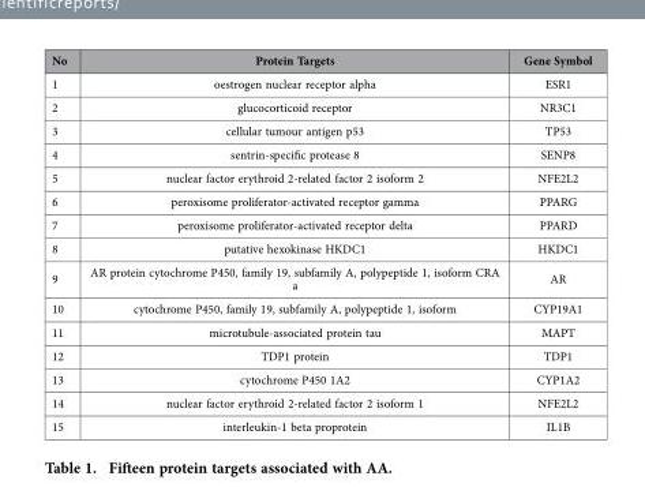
<table><thead><tr><td>No</td><td>Protein Targets</td><td>Gene Symbol</td></tr></thead><tbody><tr><td>1</td><td>oestrogen nuclear receptor alpha</td><td>ESR1</td></tr><tr><td>2</td><td>glucocorticoid receptor</td><td>NR3C1</td></tr><tr><td>3</td><td>cellular tumour antigen p53</td><td>TP53</td></tr><tr><td>4</td><td>sentrin-specific protease 8</td><td>SENP8</td></tr><tr><td>5</td><td>nuclear factor erythroid 2-related factor 2 isoform 2</td><td>NFE2L2</td></tr><tr><td>6</td><td>peroxisome proliferator-activated receptor gamma</td><td>PPARG</td></tr><tr><td>7</td><td>peroxisome proliferator-activated receptor delta</td><td>PPARD</td></tr><tr><td>8</td><td>putative hexokinase HKDC1</td><td>HKDC1</td></tr><tr><td>9</td><td>AR protein cytochrome P450, family 19, subfamily A, polypeptide 1, isoform CRA a</td><td>AR</td></tr><tr><td>10</td><td>cytochrome P450, family 19, subfamily A, polypeptide 1, isoform</td><td>CYP19A1</td></tr><tr><td>11</td><td>microtubule-associated protein tau</td><td>MAPT</td></tr><tr><td>12</td><td>TDP1 protein</td><td>TDP1</td></tr><tr><td>13</td><td>cytochrome P450 1A2</td><td>CYP1A2</td></tr><tr><td>14</td><td>nuclear factor erythroid 2-related factor 2 isoform 1</td><td>NFE2L2</td></tr><tr><td>15</td><td>interleukin-1 beta proprotein</td><td>IL1B</td></tr></tbody></table>